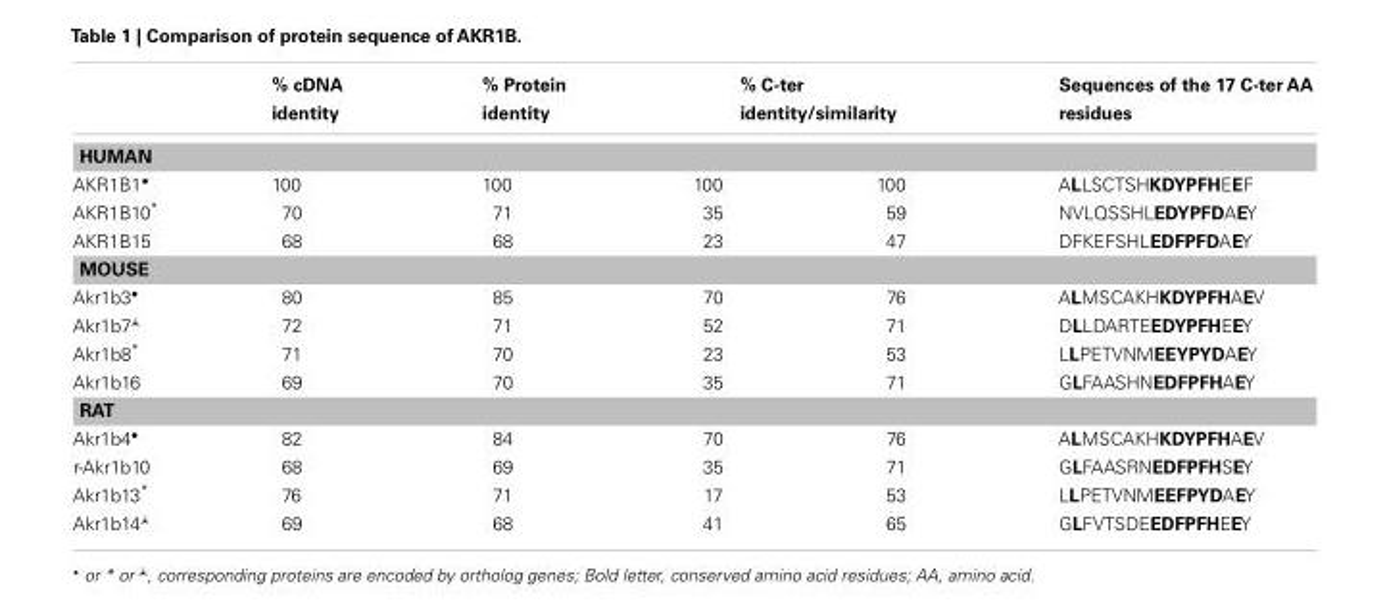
<table><thead><tr><td></td><td>% cDNA identity</td><td>% Protein identity</td><td colspan="2">% C-ter identity/similarity</td><td>Sequences of the 17 C-ter AA residues</td></tr><tr><td colspan="6">HUMAN</td></tr><tr><td>AKR1B1<sup>•</sup></td><td>100</td><td>100</td><td>100</td><td>100</td><td>ALLSCTSHKDYPFHEEF</td></tr></thead><tbody><tr><td>AKR1B10*</td><td>70</td><td>71</td><td>35</td><td>59</td><td>NVLQSSHLEDYPFDAEY</td></tr><tr><td>AKR1B15</td><td>68</td><td>68</td><td>23</td><td>47</td><td>DFKEFSHLEDFPFDAEY</td></tr><tr><td colspan="6">MOUSE</td></tr><tr><td>Akr1b3<sup>•</sup></td><td>80</td><td>85</td><td>70</td><td>76</td><td>ALMSCAKHKDYPFHAEV</td></tr><tr><td>Akr1b7</td><td>72</td><td>71</td><td>52</td><td>71</td><td>DLLDARTEEDYPFHEEY</td></tr><tr><td>Akr1b8*</td><td>71</td><td>70</td><td>23</td><td>53</td><td>LLPETVNMEEYPYDAEY</td></tr><tr><td>Akr1b16</td><td>69</td><td>70</td><td>35</td><td>71</td><td>GLFAASHNEDFPFHAEY</td></tr><tr><td colspan="6">RAT</td></tr><tr><td>Akr1b4<sup>•</sup></td><td>82</td><td>84</td><td>70</td><td>76</td><td>ALMSCAKHKDYPFHAEV</td></tr><tr><td>r-Akr1b10</td><td>68</td><td>69</td><td>35</td><td>71</td><td>GLFAASRNEDFPFHSEY</td></tr><tr><td>Akr1b13*</td><td>76</td><td>71</td><td>17</td><td>53</td><td>LLPETVNMEEFPYDAEY</td></tr><tr><td>Akr1b14</td><td>69</td><td>68</td><td>41</td><td>65</td><td>GLFVTSDEEDFPFHEEY</td></tr></tbody></table>